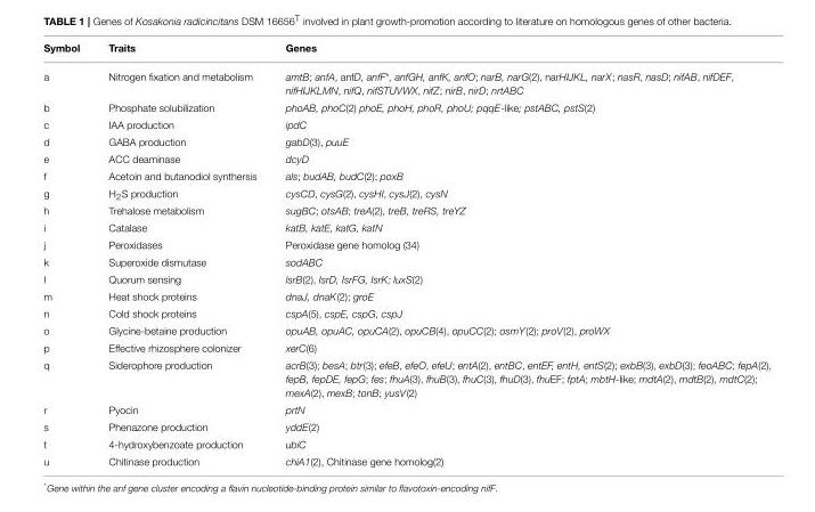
<table><thead><tr><td>Symbol</td><td>Traits</td><td>Genes</td></tr></thead><tbody><tr><td>a</td><td>Nitrogen fixation and metabolism</td><td>amtB; anfA, anfD, anfF*, anfGH, anfK, anfO; narB, narG(2), narHIJKL, narX; nasR, nasD; nifAB, nifDEF, nifHIJKLMN, nifQ, nifSTUVWX, nifZ; nirB, nirD; nrtABC</td></tr><tr><td>b</td><td>Phosphate solubilization</td><td>phoAB, phoC(2) phoE, phoH, phoR, phoU; pqqE-like; pstABC, pstS(2)</td></tr><tr><td>c</td><td>IAA production</td><td>ipdC</td></tr><tr><td>d</td><td>GABA production</td><td>gabD(3), puuE</td></tr><tr><td>e</td><td>ACC deaminase</td><td>dcyD</td></tr><tr><td>f</td><td>Acetoin and butanodiol synthersis</td><td>als; budAB, budC(2); poxB</td></tr><tr><td>g</td><td>H<sub>2</sub>S production</td><td>cysCD, cysG(2), cysHI, cysJ(2), cysN</td></tr><tr><td>h</td><td>Trehalose metabolism</td><td>sugBC; otsAB; treA(2), treB, treRS, treYZ</td></tr><tr><td>i</td><td>Catalase</td><td>katB, katE, katG, katN</td></tr><tr><td>j</td><td>Peroxidases</td><td>Peroxidase gene homolog (34)</td></tr><tr><td>k</td><td>Superoxide dismutase</td><td>sodABC</td></tr><tr><td>l</td><td>Quorum sensing</td><td>lsrB(2), IsrD, IsrFG, IsrK; luxS(2)</td></tr><tr><td>m</td><td>Heat shock proteins</td><td>dnaJ, dnaK(2); groE</td></tr><tr><td>n</td><td>Cold shock proteins</td><td>cspA(5), cspE, cspG, cspJ</td></tr><tr><td>o</td><td>Glycine-betaine production</td><td>opuAB, opuAC, opuCA(2), opuCB(4), opuCC(2); osmY(2); proV(2), proWX</td></tr><tr><td>p</td><td>Effective rhizosphere colonizer</td><td>xerC(6)</td></tr><tr><td>q</td><td>Siderophore production</td><td>acrB(3); besA; btr(3); efeB, efeO, efeU; entA(2), entBC, entEF, entH, entS(2); exbB(3), exbD(3); feoABC; fepA(2), fepB, fepDE, fepG; fes; fhuA(3), fhuB(3), fhuC(3), fhuD(3), fhuEF; fptA; mbtH-like; mdtA(2), mdtB(2), mdtC(2); mexA(2), mexB; tonB; yusV(2)</td></tr><tr><td>r</td><td>Pyocin</td><td>prtN</td></tr><tr><td>s</td><td>Phenazone production</td><td>yddE(2)</td></tr><tr><td>t</td><td>4-hydroxybenzoate production</td><td>ubiC</td></tr><tr><td>u</td><td>Chitinase production</td><td>chiA1(2), Chitinase gene homolog(2)</td></tr></tbody></table>